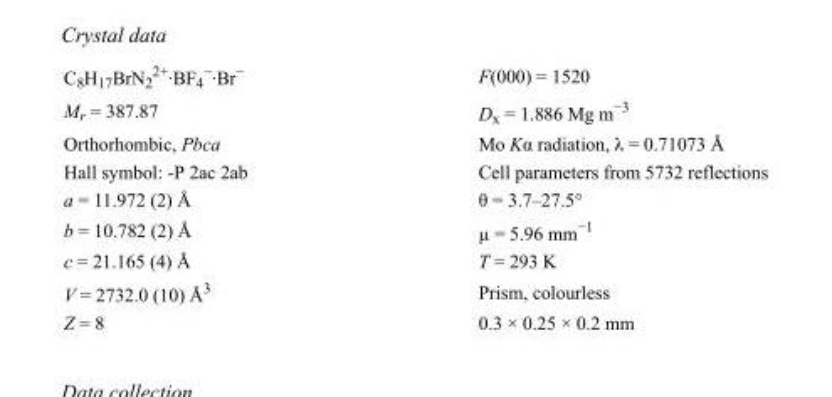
<table><tbody><tr><td>C<sub>8</sub>H<sub>17</sub>BrN<sub>2</sub> <sup>2+</sup>·BF<sub>4</sub> <sup>−</sup>·Br<sup>−</sup></td><td>F(000) = 1520</td></tr><tr><td>M<sub>r</sub> = 387.87</td><td>D<sub>x</sub> = 1.886 Mg m<sup>−3</sup></td></tr><tr><td>Orthorhombic, Pbca</td><td>Mo Kα radiation, λ = 0.71073 Å</td></tr><tr><td>Hall symbol: -P 2ac 2ab</td><td>Cell parameters from 5732 reflections</td></tr><tr><td>a = 11.972 (2) Å</td><td>θ = 3.7–27.5°</td></tr><tr><td>b = 10.782 (2) Å</td><td>µ = 5.96 mm<sup>−1</sup></td></tr><tr><td>c = 21.165 (4) Å</td><td>T = 293 K</td></tr><tr><td>V = 2732.0 (10) Å<sup>3</sup></td><td>Prism, colourless</td></tr><tr><td>Z = 8</td><td>0.3 × 0.25 × 0.2 mm</td></tr></tbody></table>